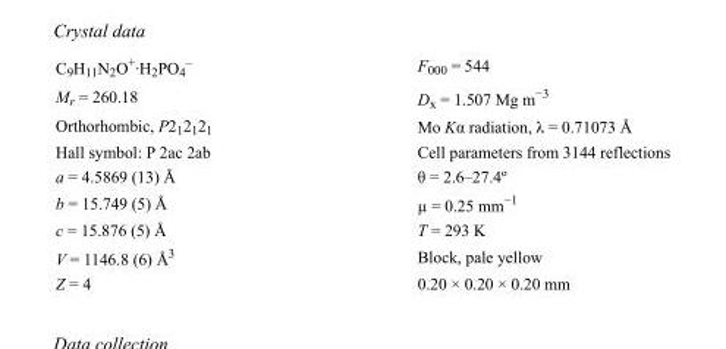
<table><tbody><tr><td>C<sub>9</sub>H<sub>11</sub>N<sub>2</sub>O<sup>+</sup>·H<sub>2</sub>PO<sub>4</sub> <sup>–</sup></td><td>F000 = 544</td></tr><tr><td>M<sub>r</sub> = 260.18</td><td>D<sub>x</sub> = 1.507 Mg m<sup>−3</sup></td></tr><tr><td>Orthorhombic, P2<sub>1</sub>2<sub>1</sub>2<sub>1</sub></td><td>Mo Kα radiation, λ = 0.71073 Å</td></tr><tr><td>Hall symbol: P 2ac 2ab</td><td>Cell parameters from 3144 reflections</td></tr><tr><td>a = 4.5869 (13) Å</td><td>θ = 2.6–27.4º</td></tr><tr><td>b = 15.749 (5) Å</td><td>µ = 0.25 mm<sup>−1</sup></td></tr><tr><td>c = 15.876 (5) Å</td><td>T = 293 K</td></tr><tr><td>V = 1146.8 (6) Å<sup>3</sup></td><td>Block, pale yellow</td></tr><tr><td>Z = 4</td><td>0.20 × 0.20 × 0.20 mm</td></tr></tbody></table>